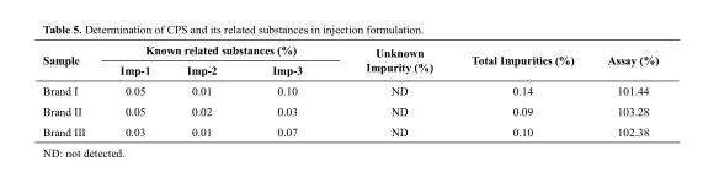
<table><thead><tr><td rowspan="2">Sample</td><td colspan="3">Known related substances (%)</td><td rowspan="2">Unknown Impurity (%)</td><td rowspan="2">Total Impurities (%)</td><td rowspan="2">Assay (%)</td></tr><tr><td>Imp-1</td><td>Imp-2</td><td>Imp-3</td></tr></thead><tbody><tr><td>Brand I</td><td>0.05</td><td>0.01</td><td>0.10</td><td>ND</td><td>0.14</td><td>101.44</td></tr><tr><td>Brand II</td><td>0.05</td><td>0.02</td><td>0.03</td><td>ND</td><td>0.09</td><td>103.28</td></tr><tr><td>Brand III</td><td>0.03</td><td>0.01</td><td>0.07</td><td>ND</td><td>0.10</td><td>102.38</td></tr></tbody></table>